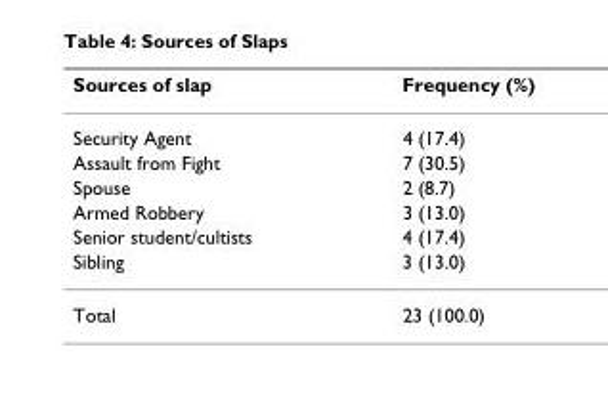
<table><thead><tr><td>Sources of slap</td><td>Frequency (%)</td></tr></thead><tbody><tr><td>Security Agent</td><td>4 (17.4)</td></tr><tr><td>Assault from Fight</td><td>7 (30.5)</td></tr><tr><td>Spouse</td><td>2 (8.7)</td></tr><tr><td>Armed Robbery</td><td>3 (13.0)</td></tr><tr><td>Senior student/cultists</td><td>4 (17.4)</td></tr><tr><td>Sibling</td><td>3 (13.0)</td></tr><tr><td>Total</td><td>23 (100.0)</td></tr></tbody></table>